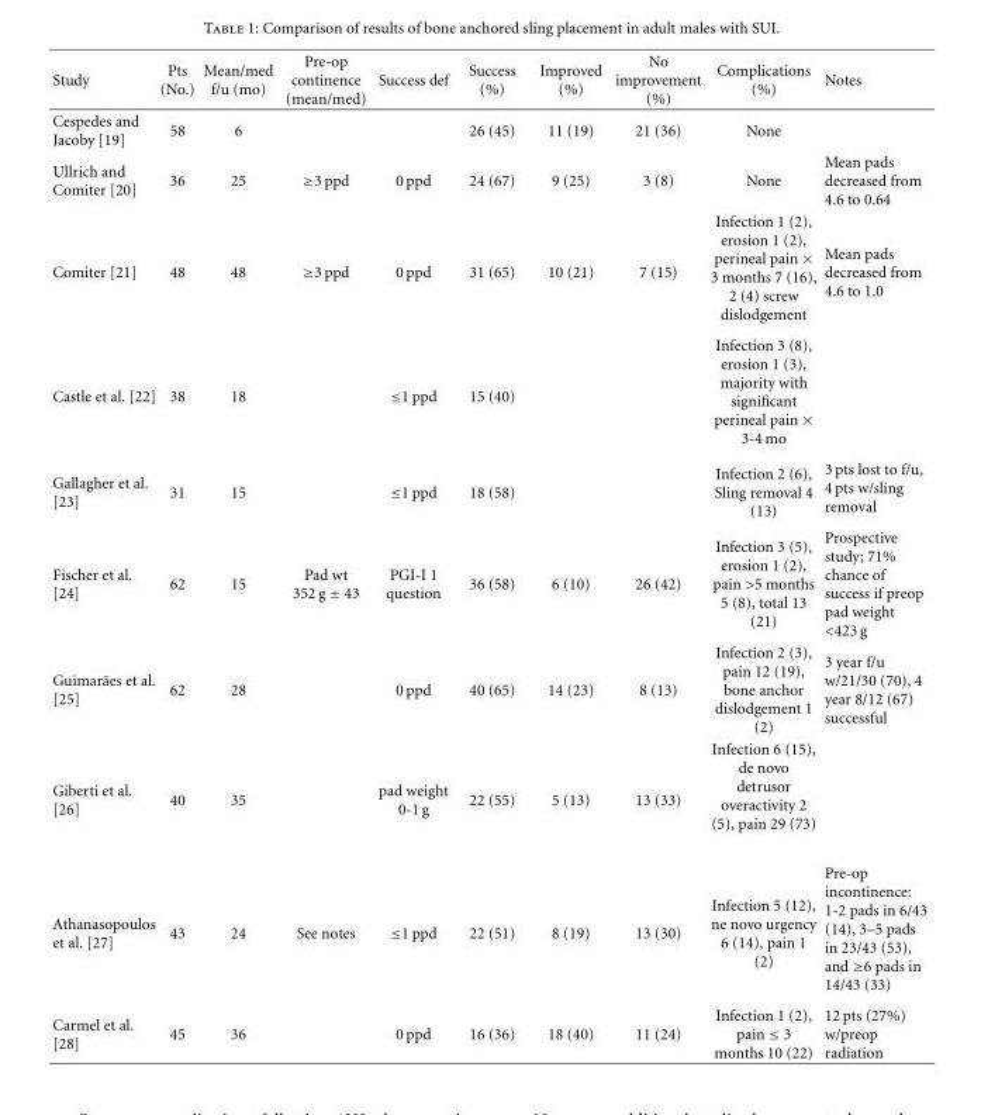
<table><thead><tr><td>Study</td><td>Pts (No.)</td><td>Mean/med f/u (mo)</td><td>Pre-op continence (mean/med)</td><td>Success def</td><td>Success (%)</td><td>Improved (%)</td><td>No improvement (%)</td><td>Complications (%)</td><td>Notes</td></tr></thead><tbody><tr><td>Cespedes and Jacoby [19]</td><td>58</td><td>6</td><td></td><td></td><td>26 (45)</td><td>11 (19)</td><td>21 (36)</td><td>None</td><td></td></tr><tr><td>Ullrich and Comiter [20]</td><td>36</td><td>25</td><td>≥3 ppd</td><td>0 ppd</td><td>24 (67)</td><td>9 (25)</td><td>3 (8)</td><td>None</td><td>Mean pads decreased from 4.6 to 0.64</td></tr><tr><td>Comiter [21]</td><td>48</td><td>48</td><td>≥3 ppd</td><td>0 ppd</td><td>31 (65)</td><td>10 (21)</td><td>7 (15)</td><td>Infection 1 (2), erosion 1 (2), perineal pain × 3 months 7 (16), 2 (4) screw dislodgement</td><td>Mean pads decreased from 4.6 to 1.0</td></tr><tr><td>Castle et al. [22]</td><td>38</td><td>18</td><td></td><td>≤1 ppd</td><td>15 (40)</td><td></td><td></td><td>Infection 3 (8), erosion 1 (3), majority with significant perineal pain × 3-4 mo</td><td></td></tr><tr><td>Gallagher et al. [23]</td><td>31</td><td>15</td><td></td><td>≤1 ppd</td><td>18 (58)</td><td></td><td></td><td>Infection 2 (6), Sling removal 4 (13)</td><td>3 pts lost to f/u, 4 pts w/sling removal</td></tr><tr><td>Fischer et al. [24]</td><td>62</td><td>15</td><td>Pad wt 352 g ± 43</td><td>PGI-I 1 question</td><td>36 (58)</td><td>6 (10)</td><td>26 (42)</td><td>Infection 3 (5), erosion 1 (2), pain &gt;5 months 5 (8), total 13 (21)</td><td>Prospective study; 71% chance of success if preop pad weight &lt;423 g</td></tr><tr><td>Guimar˜aes et al. [25]</td><td>62</td><td>28</td><td></td><td>0 ppd</td><td>40 (65)</td><td>14 (23)</td><td>8 (13)</td><td>Infection 2 (3), pain 12 (19), bone anchor dislodgement 1 (2)</td><td>3 year f/u w/21/30 (70), 4 year 8/12 (67) successful</td></tr><tr><td>Giberti et al. [26]</td><td>40</td><td>35</td><td></td><td>pad weight 0-1 g</td><td>22 (55)</td><td>5 (13)</td><td>13 (33)</td><td>Infection 6 (15), de novo detrusor overactivity 2 (5), pain 29 (73)</td><td></td></tr><tr><td>Athanasopoulos et al. [27]</td><td>43</td><td>24</td><td>See notes</td><td>≤1 ppd</td><td>22 (51)</td><td>8 (19)</td><td>13 (30)</td><td>Infection 5 (12), ne novo urgency 6 (14), pain 1 (2)</td><td>Pre-op incontinence: 1-2 pads in 6/43 (14), 3–5 pads in 23/43 (53), and ≥6 pads in 14/43 (33)</td></tr><tr><td>Carmel et al. [28]</td><td>45</td><td>36</td><td></td><td>0 ppd</td><td>16 (36)</td><td>18 (40)</td><td>11 (24)</td><td>Infection 1 (2), pain ≤ 3 months 10 (22)</td><td>12 pts (27%) w/preop radiation</td></tr></tbody></table>